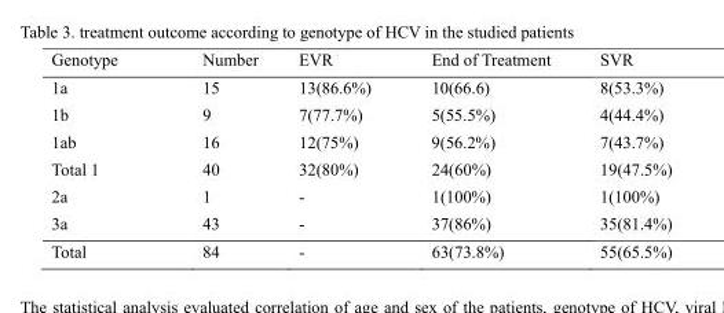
<table><thead><tr><td>Genotype</td><td>Number</td><td>EVR</td><td>End of Treatment</td><td>SVR</td></tr></thead><tbody><tr><td>1a</td><td>15</td><td>13(86.6%)</td><td>10(66.6)</td><td>8(53.3%)</td></tr><tr><td>1b</td><td>9</td><td>7(77.7%)</td><td>5(55.5%)</td><td>4(44.4%)</td></tr><tr><td>1ab</td><td>16</td><td>12(75%)</td><td>9(56.2%)</td><td>7(43.7%)</td></tr><tr><td>Total 1</td><td>40</td><td>32(80%)</td><td>24(60%)</td><td>19(47.5%)</td></tr><tr><td>2a</td><td>1</td><td>-</td><td>1(100%)</td><td>1(100%)</td></tr><tr><td>3a</td><td>43</td><td>-</td><td>37(86%)</td><td>35(81.4%)</td></tr><tr><td>Total</td><td>84</td><td>-</td><td>63(73.8%)</td><td>55(65.5%)</td></tr></tbody></table>